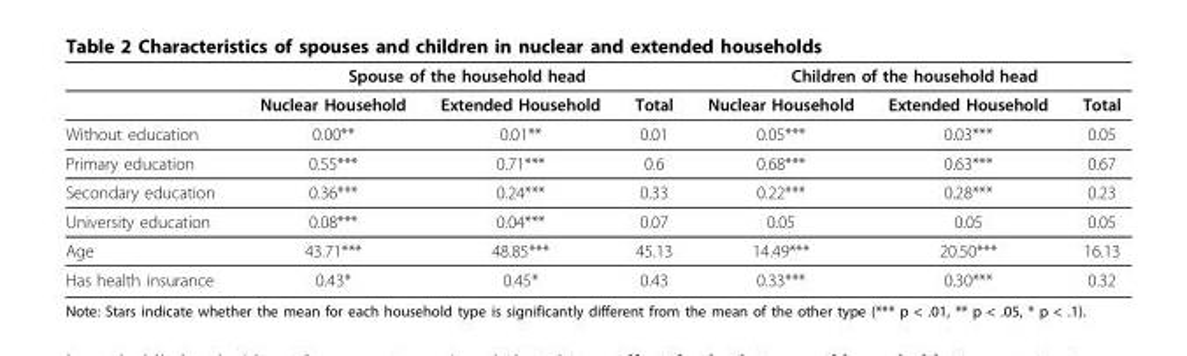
<table><thead><tr><td rowspan="2"></td><td colspan="3">Spouse of the household head</td><td colspan="3">Children of the household head</td></tr><tr><td>Nuclear Household</td><td>Extended Household</td><td>Total</td><td>Nuclear Household</td><td>Extended Household</td><td>Total</td></tr></thead><tbody><tr><td>Without education</td><td>0.00**</td><td>0.01**</td><td>0.01</td><td>0.05***</td><td>0.03***</td><td>0.05</td></tr><tr><td>Primary education</td><td>0.55***</td><td>0.71***</td><td>0.6</td><td>0.68***</td><td>0.63***</td><td>0.67</td></tr><tr><td>Secondary education</td><td>0.36***</td><td>0.24***</td><td>0.33</td><td>0.22***</td><td>0.28***</td><td>0.23</td></tr><tr><td>University education</td><td>0.08***</td><td>0.04***</td><td>0.07</td><td>0.05</td><td>0.05</td><td>0.05</td></tr><tr><td>Age</td><td>43.71***</td><td>48.85***</td><td>45.13</td><td>14.49***</td><td>20.50***</td><td>16.13</td></tr><tr><td>Has health insurance</td><td>0.43*</td><td>0.45*</td><td>0.43</td><td>0.33***</td><td>0.30***</td><td>0.32</td></tr></tbody></table>